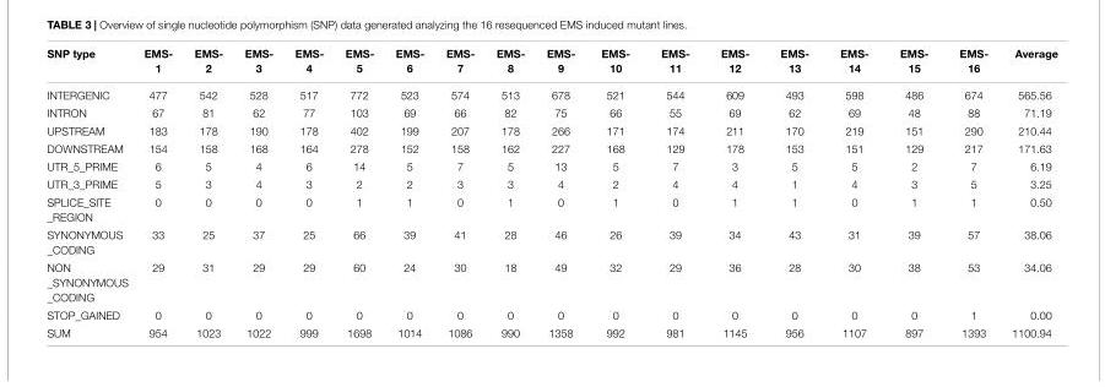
<table><thead><tr><td>SNP type</td><td>EMS- 1</td><td>EMS- 2</td><td>EMS- 3</td><td>EMS- 4</td><td>EMS- 5</td><td>EMS- 6</td><td>EMS- 7</td><td>EMS- 8</td><td>EMS- 9</td><td>EMS- 10</td><td>EMS- 11</td><td>EMS- 12</td><td>EMS- 13</td><td>EMS- 14</td><td>EMS- 15</td><td>EMS- 16</td><td>Average</td></tr></thead><tbody><tr><td>INTERGENIC</td><td>477</td><td>542</td><td>528</td><td>517</td><td>772</td><td>523</td><td>574</td><td>513</td><td>678</td><td>521</td><td>544</td><td>609</td><td>493</td><td>598</td><td>486</td><td>674</td><td>565.56</td></tr><tr><td>INTRON</td><td>67</td><td>81</td><td>62</td><td>77</td><td>103</td><td>69</td><td>66</td><td>82</td><td>75</td><td>66</td><td>55</td><td>69</td><td>62</td><td>69</td><td>48</td><td>88</td><td>71.19</td></tr><tr><td>UPSTREAM</td><td>183</td><td>178</td><td>190</td><td>178</td><td>402</td><td>199</td><td>207</td><td>178</td><td>266</td><td>171</td><td>174</td><td>211</td><td>170</td><td>219</td><td>151</td><td>290</td><td>210.44</td></tr><tr><td>DOWNSTREAM</td><td>154</td><td>158</td><td>168</td><td>164</td><td>278</td><td>152</td><td>158</td><td>162</td><td>227</td><td>168</td><td>129</td><td>178</td><td>153</td><td>151</td><td>129</td><td>217</td><td>171.63</td></tr><tr><td>UTR_5_PRIME</td><td>6</td><td>5</td><td>4</td><td>6</td><td>14</td><td>5</td><td>7</td><td>5</td><td>13</td><td>5</td><td>7</td><td>3</td><td>5</td><td>5</td><td>2</td><td>7</td><td>6.19</td></tr><tr><td>UTR_3_PRIME</td><td>5</td><td>3</td><td>4</td><td>3</td><td>2</td><td>2</td><td>3</td><td>3</td><td>4</td><td>2</td><td>4</td><td>4</td><td>1</td><td>4</td><td>3</td><td>5</td><td>3.25</td></tr><tr><td>SPLICE_SITE _REGION</td><td>0</td><td>0</td><td>0</td><td>0</td><td>1</td><td>1</td><td>0</td><td>1</td><td>0</td><td>1</td><td>0</td><td>1</td><td>1</td><td>0</td><td>1</td><td>1</td><td>0.50</td></tr><tr><td>SYNONYMOUS _CODING</td><td>33</td><td>25</td><td>37</td><td>25</td><td>66</td><td>39</td><td>41</td><td>28</td><td>46</td><td>26</td><td>39</td><td>34</td><td>43</td><td>31</td><td>39</td><td>57</td><td>38.06</td></tr><tr><td>NON _SYNONYMOUS _CODING</td><td>29</td><td>31</td><td>29</td><td>29</td><td>60</td><td>24</td><td>30</td><td>18</td><td>49</td><td>32</td><td>29</td><td>36</td><td>28</td><td>30</td><td>38</td><td>53</td><td>34.06</td></tr><tr><td>STOP_GAINED</td><td>0</td><td>0</td><td>0</td><td>0</td><td>0</td><td>0</td><td>0</td><td>0</td><td>0</td><td>0</td><td>0</td><td>0</td><td>0</td><td>0</td><td>0</td><td>1</td><td>0.00</td></tr><tr><td>SUM</td><td>954</td><td>1023</td><td>1022</td><td>999</td><td>1698</td><td>1014</td><td>1086</td><td>990</td><td>1358</td><td>992</td><td>981</td><td>1145</td><td>956</td><td>1107</td><td>897</td><td>1393</td><td>1100.94</td></tr></tbody></table>